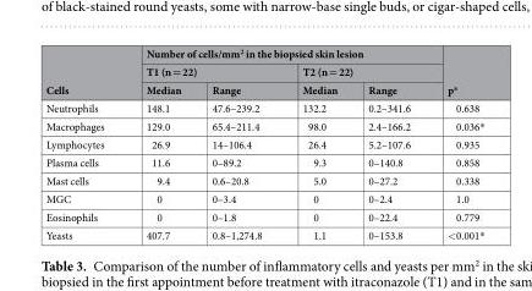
<table><thead><tr><td rowspan="3">Cells</td><td colspan="4">Number of cells/mm<sup>2</sup> in the biopsied skin lesion</td><td rowspan="3">p<sup>a</sup></td></tr><tr><td colspan="2">T1 (n = 22)</td><td colspan="2">T2 (n = 22)</td></tr><tr><td>Median</td><td>Range</td><td>Median</td><td>Range</td></tr></thead><tbody><tr><td>Neutrophils</td><td>148.1</td><td>47.6–239.2</td><td>132.2</td><td>0.2–341.6</td><td>0.638</td></tr><tr><td>Macrophages</td><td>129.0</td><td>65.4–211.4</td><td>98.0</td><td>2.4–166.2</td><td>0.036*</td></tr><tr><td>Lymphocytes</td><td>26.9</td><td>14–106.4</td><td>26.4</td><td>5.2–107.6</td><td>0.935</td></tr><tr><td>Plasma cells</td><td>11.6</td><td>0–89.2</td><td>9.3</td><td>0–140.8</td><td>0.858</td></tr><tr><td>Mast cells</td><td>9.4</td><td>0.6–20.8</td><td>5.0</td><td>0–27.2</td><td>0.338</td></tr><tr><td>MGC</td><td>0</td><td>0–3.4</td><td>0</td><td>0–2.4</td><td>1.0</td></tr><tr><td>Eosinophils</td><td>0</td><td>0–1.8</td><td>0</td><td>0–22.4</td><td>0.779</td></tr><tr><td>Yeasts</td><td>407.7</td><td>0.8–1,274.8</td><td>1.1</td><td>0–153.8</td><td>&lt;0.001*</td></tr></tbody></table>